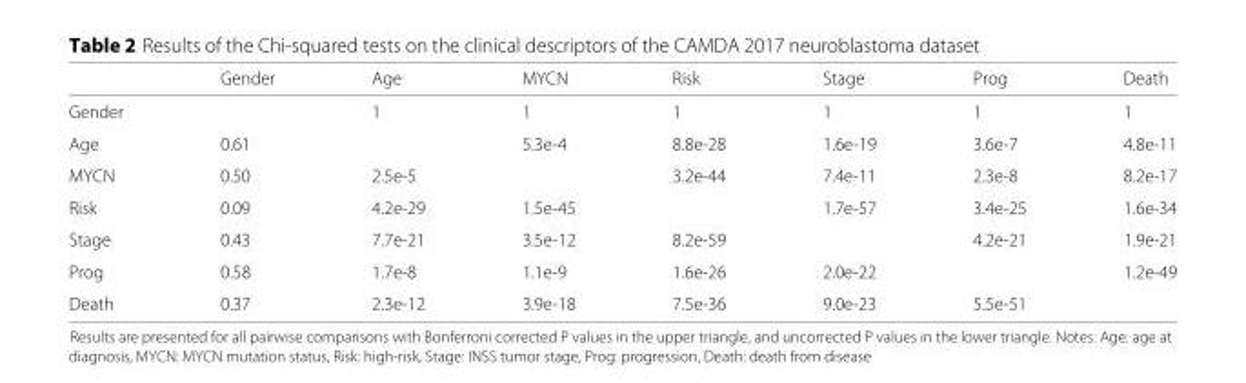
<table><thead><tr><td></td><td>Gender</td><td>Age</td><td>MYCN</td><td>Risk</td><td>Stage</td><td>Prog</td><td>Death</td></tr></thead><tbody><tr><td>Gender</td><td></td><td>1</td><td>1</td><td>1</td><td>1</td><td>1</td><td>1</td></tr><tr><td>Age</td><td>0.61</td><td></td><td>5.3e-4</td><td>8.8e-28</td><td>1.6e-19</td><td>3.6e-7</td><td>4.8e-11</td></tr><tr><td>MYCN</td><td>0.50</td><td>2.5e-5</td><td></td><td>3.2e-44</td><td>7.4e-11</td><td>2.3e-8</td><td>8.2e-17</td></tr><tr><td>Risk</td><td>0.09</td><td>4.2e-29</td><td>1.5e-45</td><td></td><td>1.7e-57</td><td>3.4e-25</td><td>1.6e-34</td></tr><tr><td>Stage</td><td>0.43</td><td>7.7e-21</td><td>3.5e-12</td><td>8.2e-59</td><td></td><td>4.2e-21</td><td>1.9e-21</td></tr><tr><td>Prog</td><td>0.58</td><td>1.7e-8</td><td>1.1e-9</td><td>1.6e-26</td><td>2.0e-22</td><td></td><td>1.2e-49</td></tr><tr><td>Death</td><td>0.37</td><td>2.3e-12</td><td>3.9e-18</td><td>7.5e-36</td><td>9.0e-23</td><td>5.5e-51</td><td></td></tr></tbody></table>